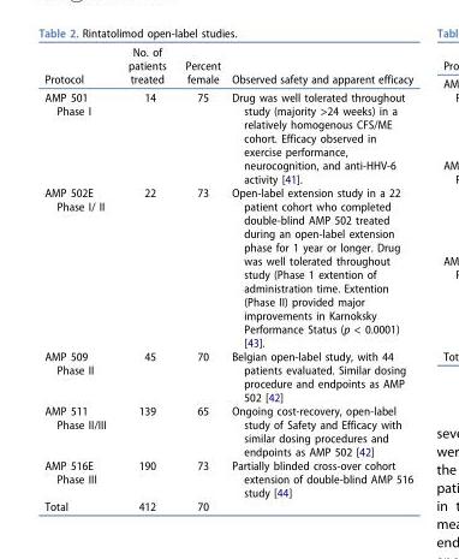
<table><thead><tr><td>Protocol</td><td>No. of patients treated</td><td>Percent female</td><td>Observed safety and apparent efficacy</td></tr></thead><tbody><tr><td>AMP 501 Phase I</td><td>14</td><td>75</td><td>Drug was well tolerated throughout study (majority &gt;24 weeks) in a relatively homogenous CFS/ME cohort. Efficacy observed in exercise performance, neurocognition, and anti-HHV-6 activity [41].</td></tr><tr><td>AMP 502E Phase I/ II</td><td>22</td><td>73</td><td>Open-label extension study in a 22 patient cohort who completed double-blind AMP 502 treated during an open-label extension phase for 1 year or longer. Drug was well tolerated throughout study (Phase 1 extention of administration time. Extention (Phase II) provided major improvements in Karnoksky Performance Status (p &lt; 0.0001) [43].</td></tr><tr><td>AMP 509 Phase II</td><td>45</td><td>70</td><td>Belgian open-label study, with 44 patients evaluated. Similar dosing procedure and endpoints as AMP 502 [42]</td></tr><tr><td>AMP 511 Phase II/III</td><td>139</td><td>65</td><td>Ongoing cost-recovery, open-label study of Safety and Efficacy with similar dosing procedures and endpoints as AMP 502 [42]</td></tr><tr><td>AMP 516E Phase III</td><td>190</td><td>73</td><td>Partially blinded cross-over cohort extension of double-blind AMP 516 study [44]</td></tr><tr><td>Total</td><td>412</td><td>70</td><td></td></tr></tbody></table>